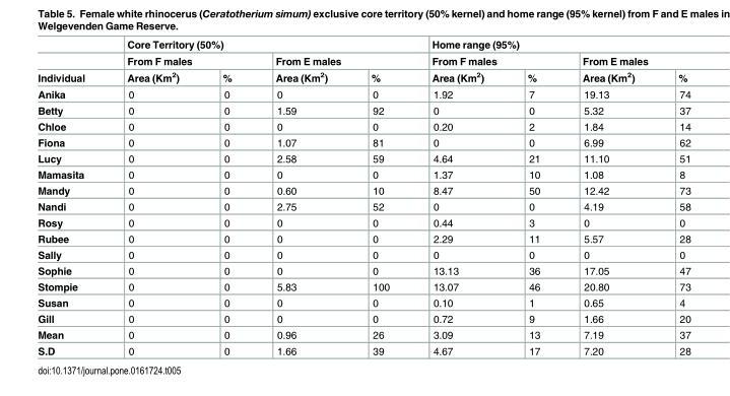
<table><thead><tr><td rowspan="3">Individual</td><td colspan="4">Core Territory (50%)</td><td colspan="4">Home range (95%)</td></tr><tr><td colspan="2">From F males</td><td colspan="2">From E males</td><td colspan="2">From F males</td><td colspan="2">From E males</td></tr><tr><td>Area (Km<sup>2</sup>)</td><td>%</td><td>Area (Km<sup>2</sup>)</td><td>%</td><td>Area (Km<sup>2</sup>)</td><td>%</td><td>Area (Km<sup>2</sup>)</td><td>%</td></tr></thead><tbody><tr><td>Anika</td><td>0</td><td>0</td><td>0</td><td>0</td><td>1.92</td><td>7</td><td>19.13</td><td>74</td></tr><tr><td>Betty</td><td>0</td><td>0</td><td>1.59</td><td>92</td><td>0</td><td>0</td><td>5.32</td><td>37</td></tr><tr><td>Chloe</td><td>0</td><td>0</td><td>0</td><td>0</td><td>0.20</td><td>2</td><td>1.84</td><td>14</td></tr><tr><td>Fiona</td><td>0</td><td>0</td><td>1.07</td><td>81</td><td>0</td><td>0</td><td>6.99</td><td>62</td></tr><tr><td>Lucy</td><td>0</td><td>0</td><td>2.58</td><td>59</td><td>4.64</td><td>21</td><td>11.10</td><td>51</td></tr><tr><td>Mamasita</td><td>0</td><td>0</td><td>0</td><td>0</td><td>1.37</td><td>10</td><td>1.08</td><td>8</td></tr><tr><td>Mandy</td><td>0</td><td>0</td><td>0.60</td><td>10</td><td>8.47</td><td>50</td><td>12.42</td><td>73</td></tr><tr><td>Nandi</td><td>0</td><td>0</td><td>2.75</td><td>52</td><td>0</td><td>0</td><td>4.19</td><td>58</td></tr><tr><td>Rosy</td><td>0</td><td>0</td><td>0</td><td>0</td><td>0.44</td><td>3</td><td>0</td><td>0</td></tr><tr><td>Rubee</td><td>0</td><td>0</td><td>0</td><td>0</td><td>2.29</td><td>11</td><td>5.57</td><td>28</td></tr><tr><td>Sally</td><td>0</td><td>0</td><td>0</td><td>0</td><td>0</td><td>0</td><td>0</td><td>0</td></tr><tr><td>Sophie</td><td>0</td><td>0</td><td>0</td><td>0</td><td>13.13</td><td>36</td><td>17.05</td><td>47</td></tr><tr><td>Stompie</td><td>0</td><td>0</td><td>5.83</td><td>100</td><td>13.07</td><td>46</td><td>20.80</td><td>73</td></tr><tr><td>Susan</td><td>0</td><td>0</td><td>0</td><td>0</td><td>0.10</td><td>1</td><td>0.65</td><td>4</td></tr><tr><td>Gill</td><td>0</td><td>0</td><td>0</td><td>0</td><td>0.72</td><td>9</td><td>1.66</td><td>20</td></tr><tr><td>Mean</td><td>0</td><td>0</td><td>0.96</td><td>26</td><td>3.09</td><td>13</td><td>7.19</td><td>37</td></tr><tr><td>S.D</td><td>0</td><td>0</td><td>1.66</td><td>39</td><td>4.67</td><td>17</td><td>7.20</td><td>28</td></tr></tbody></table>